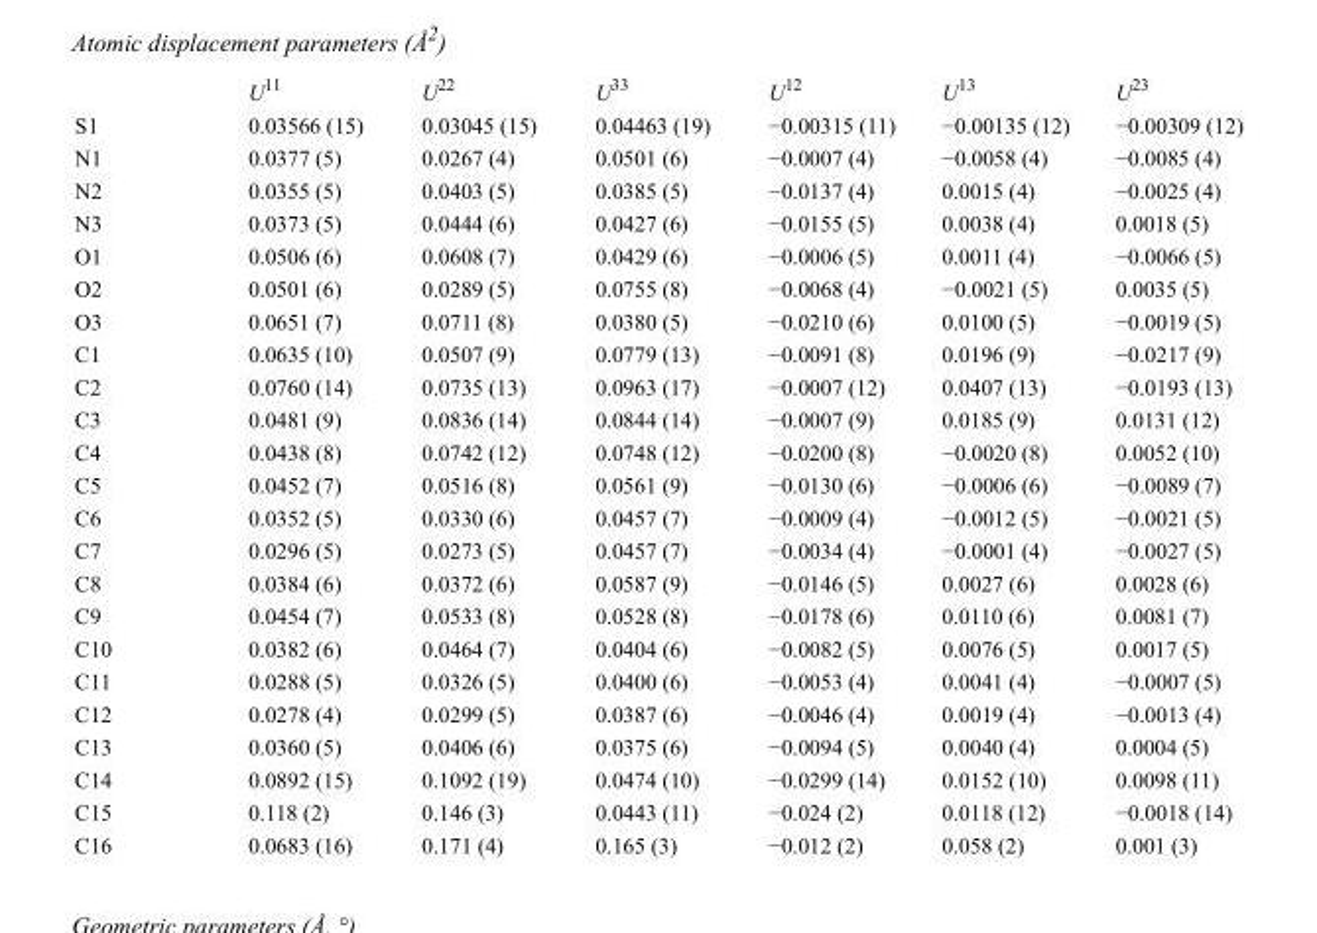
<table><thead><tr><td></td><td>U<sup>11</sup></td><td>U<sup>22</sup></td><td>U<sup>33</sup></td><td>U<sup>12</sup></td><td>U<sup>13</sup></td><td>U<sup>23</sup></td></tr></thead><tbody><tr><td>S1</td><td>0.03566 (15)</td><td>0.03045 (15)</td><td>0.04463 (19)</td><td>−0.00315 (11)</td><td>−0.00135 (12)</td><td>−0.00309 (12)</td></tr><tr><td>N1</td><td>0.0377 (5)</td><td>0.0267 (4)</td><td>0.0501 (6)</td><td>−0.0007 (4)</td><td>−0.0058 (4)</td><td>−0.0085 (4)</td></tr><tr><td>N2</td><td>0.0355 (5)</td><td>0.0403 (5)</td><td>0.0385 (5)</td><td>−0.0137 (4)</td><td>0.0015 (4)</td><td>−0.0025 (4)</td></tr><tr><td>N3</td><td>0.0373 (5)</td><td>0.0444 (6)</td><td>0.0427 (6)</td><td>−0.0155 (5)</td><td>0.0038 (4)</td><td>0.0018 (5)</td></tr><tr><td>O1</td><td>0.0506 (6)</td><td>0.0608 (7)</td><td>0.0429 (6)</td><td>−0.0006 (5)</td><td>0.0011 (4)</td><td>−0.0066 (5)</td></tr><tr><td>O2</td><td>0.0501 (6)</td><td>0.0289 (5)</td><td>0.0755 (8)</td><td>−0.0068 (4)</td><td>−0.0021 (5)</td><td>0.0035 (5)</td></tr><tr><td>O3</td><td>0.0651 (7)</td><td>0.0711 (8)</td><td>0.0380 (5)</td><td>−0.0210 (6)</td><td>0.0100 (5)</td><td>−0.0019 (5)</td></tr><tr><td>C1</td><td>0.0635 (10)</td><td>0.0507 (9)</td><td>0.0779 (13)</td><td>−0.0091 (8)</td><td>0.0196 (9)</td><td>−0.0217 (9)</td></tr><tr><td>C2</td><td>0.0760 (14)</td><td>0.0735 (13)</td><td>0.0963 (17)</td><td>−0.0007 (12)</td><td>0.0407 (13)</td><td>−0.0193 (13)</td></tr><tr><td>C3</td><td>0.0481 (9)</td><td>0.0836 (14)</td><td>0.0844 (14)</td><td>−0.0007 (9)</td><td>0.0185 (9)</td><td>0.0131 (12)</td></tr><tr><td>C4</td><td>0.0438 (8)</td><td>0.0742 (12)</td><td>0.0748 (12)</td><td>−0.0200 (8)</td><td>−0.0020 (8)</td><td>0.0052 (10)</td></tr><tr><td>C5</td><td>0.0452 (7)</td><td>0.0516 (8)</td><td>0.0561 (9)</td><td>−0.0130 (6)</td><td>−0.0006 (6)</td><td>−0.0089 (7)</td></tr><tr><td>C6</td><td>0.0352 (5)</td><td>0.0330 (6)</td><td>0.0457 (7)</td><td>−0.0009 (4)</td><td>−0.0012 (5)</td><td>−0.0021 (5)</td></tr><tr><td>C7</td><td>0.0296 (5)</td><td>0.0273 (5)</td><td>0.0457 (7)</td><td>−0.0034 (4)</td><td>−0.0001 (4)</td><td>−0.0027 (5)</td></tr><tr><td>C8</td><td>0.0384 (6)</td><td>0.0372 (6)</td><td>0.0587 (9)</td><td>−0.0146 (5)</td><td>0.0027 (6)</td><td>0.0028 (6)</td></tr><tr><td>C9</td><td>0.0454 (7)</td><td>0.0533 (8)</td><td>0.0528 (8)</td><td>−0.0178 (6)</td><td>0.0110 (6)</td><td>0.0081 (7)</td></tr><tr><td>C10</td><td>0.0382 (6)</td><td>0.0464 (7)</td><td>0.0404 (6)</td><td>−0.0082 (5)</td><td>0.0076 (5)</td><td>0.0017 (5)</td></tr><tr><td>C11</td><td>0.0288 (5)</td><td>0.0326 (5)</td><td>0.0400 (6)</td><td>−0.0053 (4)</td><td>0.0041 (4)</td><td>−0.0007 (5)</td></tr><tr><td>C12</td><td>0.0278 (4)</td><td>0.0299 (5)</td><td>0.0387 (6)</td><td>−0.0046 (4)</td><td>0.0019 (4)</td><td>−0.0013 (4)</td></tr><tr><td>C13</td><td>0.0360 (5)</td><td>0.0406 (6)</td><td>0.0375 (6)</td><td>−0.0094 (5)</td><td>0.0040 (4)</td><td>0.0004 (5)</td></tr><tr><td>C14</td><td>0.0892 (15)</td><td>0.1092 (19)</td><td>0.0474 (10)</td><td>−0.0299 (14)</td><td>0.0152 (10)</td><td>0.0098 (11)</td></tr><tr><td>C15</td><td>0.118 (2)</td><td>0.146 (3)</td><td>0.0443 (11)</td><td>−0.024 (2)</td><td>0.0118 (12)</td><td>−0.0018 (14)</td></tr><tr><td>C16</td><td>0.0683 (16)</td><td>0.171 (4)</td><td>0.165 (3)</td><td>−0.012 (2)</td><td>0.058 (2)</td><td>0.001 (3)</td></tr></tbody></table>